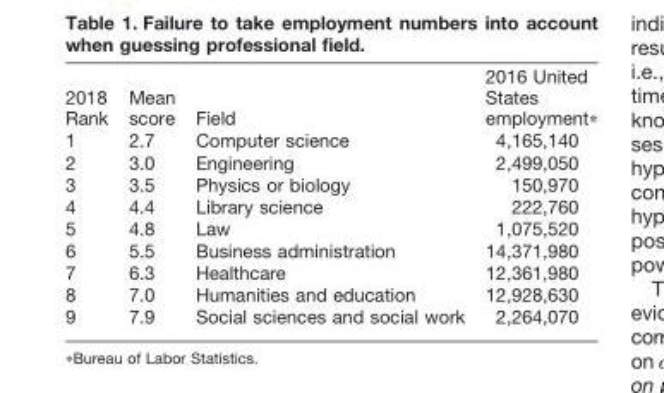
<table><thead><tr><td>2018 Rank</td><td>Mean score</td><td>Field</td><td>2016 United States employment*</td></tr></thead><tbody><tr><td>1</td><td>2.7</td><td>Computer science</td><td>4,165,140</td></tr><tr><td>2</td><td>3.0</td><td>Engineering</td><td>2,499,050</td></tr><tr><td>3</td><td>3.5</td><td>Physics or biology</td><td>150,970</td></tr><tr><td>4</td><td>4.4</td><td>Library science</td><td>222,760</td></tr><tr><td>5</td><td>4.8</td><td>Law</td><td>1,075,520</td></tr><tr><td>6</td><td>5.5</td><td>Business administration</td><td>14,371,980</td></tr><tr><td>7</td><td>6.3</td><td>Healthcare</td><td>12,361,980</td></tr><tr><td>8</td><td>7.0</td><td>Humanities and education</td><td>12,928,630</td></tr><tr><td>9</td><td>7.9</td><td>Social sciences and social work</td><td>2,264,070</td></tr></tbody></table>